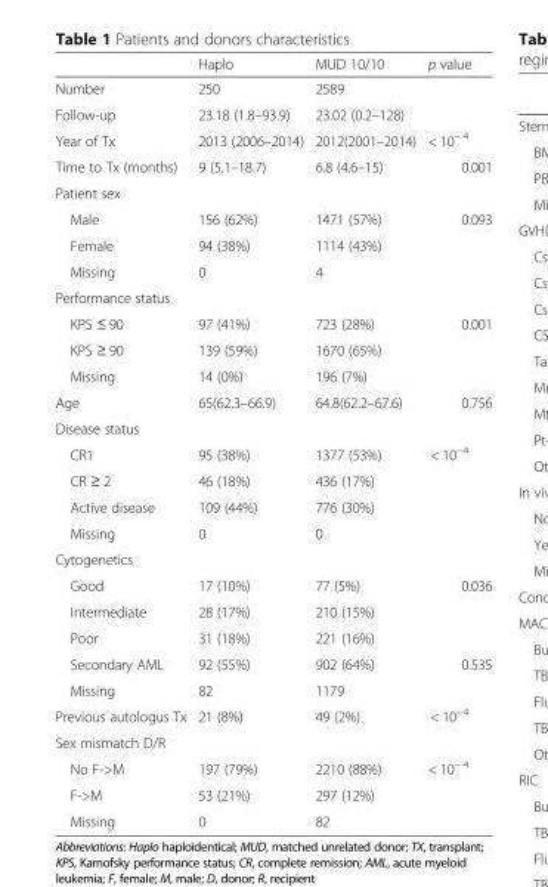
<table><thead><tr><td></td><td>Haplo</td><td>MUD 10/10</td><td>p value</td></tr></thead><tbody><tr><td>Number</td><td>250</td><td>2589</td><td></td></tr><tr><td>Follow-up</td><td>23.18 (1.8–93.9)</td><td>23.02 (0.2–128)</td><td></td></tr><tr><td>Year of Tx</td><td>2013 (2006–2014)</td><td>2012(2001–2014)</td><td>&lt; 10<sup>− 4</sup></td></tr><tr><td>Time to Tx (months)</td><td>9 (5.1–18.7)</td><td>6.8 (4.6–15)</td><td>0.001</td></tr><tr><td colspan="4">Patient sex</td></tr><tr><td>Male</td><td>156 (62%)</td><td>1471 (57%)</td><td>0.093</td></tr><tr><td>Female</td><td>94 (38%)</td><td>1114 (43%)</td><td></td></tr><tr><td>Missing</td><td>0</td><td>4</td><td></td></tr><tr><td colspan="4">Performance status</td></tr><tr><td>KPS ≤ 90</td><td>97 (41%)</td><td>723 (28%)</td><td>0.001</td></tr><tr><td>KPS ≥ 90</td><td>139 (59%)</td><td>1670 (65%)</td><td></td></tr><tr><td>Missing</td><td>14 (0%)</td><td>196 (7%)</td><td></td></tr><tr><td>Age</td><td>65(62.3–66.9)</td><td>64.8(62.2–67.6)</td><td>0.756</td></tr><tr><td colspan="4">Disease status</td></tr><tr><td>CR1</td><td>95 (38%)</td><td>1377 (53%)</td><td>&lt; 10<sup>−4</sup></td></tr><tr><td>CR ≥ 2</td><td>46 (18%)</td><td>436 (17%)</td><td></td></tr><tr><td>Active disease</td><td>109 (44%)</td><td>776 (30%)</td><td></td></tr><tr><td>Missing</td><td>0</td><td>0</td><td></td></tr><tr><td colspan="4">Cytogenetics</td></tr><tr><td>Good</td><td>17 (10%)</td><td>77 (5%)</td><td>0.036</td></tr><tr><td>Intermediate</td><td>28 (17%)</td><td>210 (15%)</td><td></td></tr><tr><td>Poor</td><td>31 (18%)</td><td>221 (16%)</td><td></td></tr><tr><td>Secondary AML</td><td>92 (55%)</td><td>902 (64%)</td><td>0.535</td></tr><tr><td>Missing</td><td>82</td><td>1179</td><td></td></tr><tr><td>Previous autologus Tx</td><td>21 (8%)</td><td>49 (2%)</td><td>&lt; 10<sup>−4</sup></td></tr><tr><td colspan="4">Sex mismatch D/R</td></tr><tr><td>No F-&gt;M</td><td>197 (79%)</td><td>2210 (88%)</td><td>&lt; 10<sup>− 4</sup></td></tr><tr><td>F-&gt;M</td><td>53 (21%)</td><td>297 (12%)</td><td></td></tr><tr><td>Missing</td><td>0</td><td>82</td><td></td></tr></tbody></table>